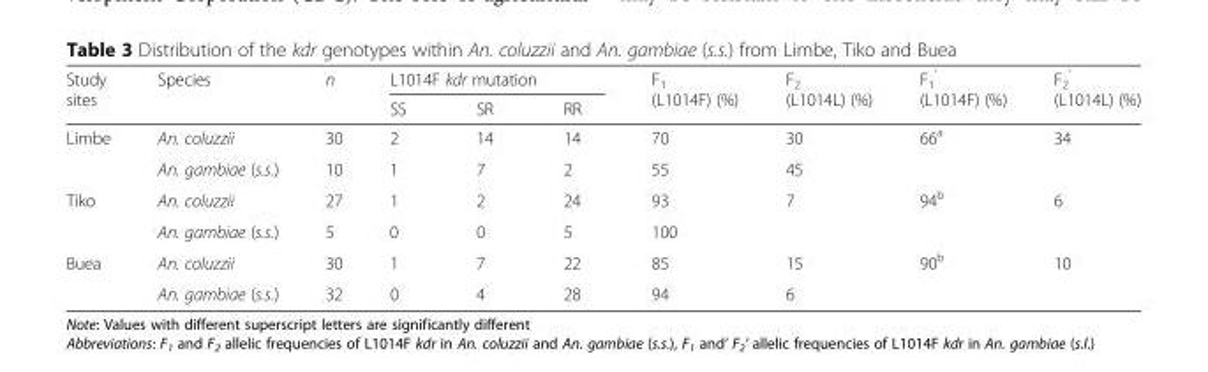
<table><thead><tr><td rowspan="2">Study sites</td><td rowspan="2">Species</td><td rowspan="2">n</td><td colspan="3">L1014F kdr mutation</td><td rowspan="2">F<sub>1</sub> (L1014F) (%)</td><td rowspan="2">F<sub>2</sub> (L1014L) (%)</td><td rowspan="2">F<sub>1</sub> <sup>’</sup> (L1014F) (%)</td><td rowspan="2">F<sub>2</sub> <sup>’</sup> (L1014L) (%)</td></tr><tr><td>SS</td><td>SR</td><td>RR</td></tr></thead><tbody><tr><td rowspan="2">Limbe</td><td>An. coluzzii</td><td>30</td><td>2</td><td>14</td><td>14</td><td>70</td><td>30</td><td rowspan="2">66<sup>a</sup></td><td rowspan="2">34</td></tr><tr><td>An. gambiae (s.s.)</td><td>10</td><td>1</td><td>7</td><td>2</td><td>55</td><td>45</td></tr><tr><td rowspan="2">Tiko</td><td>An. coluzzii</td><td>27</td><td>1</td><td>2</td><td>24</td><td>93</td><td>7</td><td rowspan="2">94<sup>b</sup></td><td rowspan="2">6</td></tr><tr><td>An. gambiae (s.s.)</td><td>5</td><td>0</td><td>0</td><td>5</td><td>100</td><td></td></tr><tr><td rowspan="2">Buea</td><td>An. coluzzii</td><td>30</td><td>1</td><td>7</td><td>22</td><td>85</td><td>15</td><td rowspan="2">90<sup>b</sup></td><td rowspan="2">10</td></tr><tr><td>An. gambiae (s.s.)</td><td>32</td><td>0</td><td>4</td><td>28</td><td>94</td><td>6</td></tr></tbody></table>